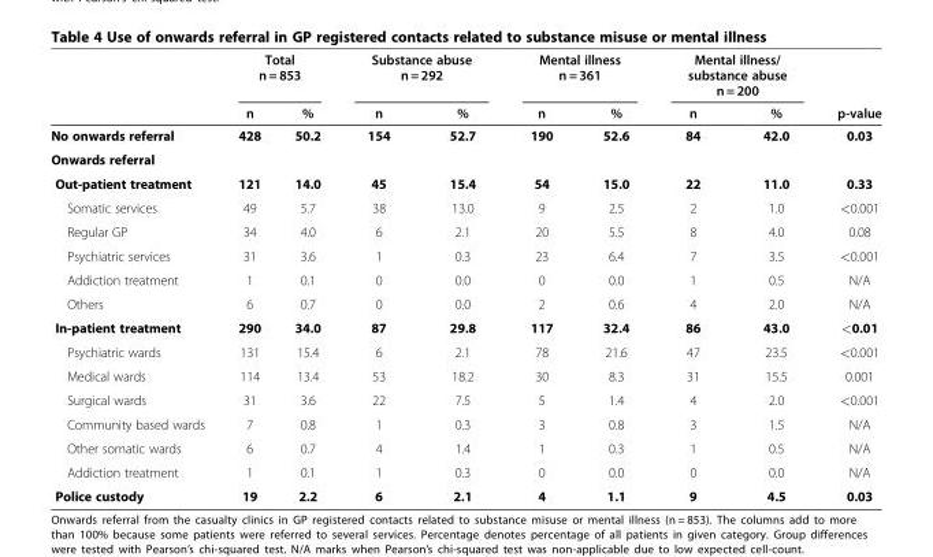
<table><thead><tr><td rowspan="2"></td><td colspan="2">Total n = 853</td><td colspan="2">Substance abuse n = 292</td><td colspan="2">Mental illness n = 361</td><td colspan="2">Mental illness/ substance abuse n = 200</td><td rowspan="2">p-value</td></tr><tr><td>n</td><td>%</td><td>n</td><td>%</td><td>n</td><td>%</td><td>n</td><td>%</td></tr></thead><tbody><tr><td>No onwards referral</td><td>428</td><td>50.2</td><td>154</td><td>52.7</td><td>190</td><td>52.6</td><td>84</td><td>42.0</td><td>0.03</td></tr><tr><td colspan="10">Onwards referral</td></tr><tr><td>Out-patient treatment</td><td>121</td><td>14.0</td><td>45</td><td>15.4</td><td>54</td><td>15.0</td><td>22</td><td>11.0</td><td>0.33</td></tr><tr><td>Somatic services</td><td>49</td><td>5.7</td><td>38</td><td>13.0</td><td>9</td><td>2.5</td><td>2</td><td>1.0</td><td>&lt;0.001</td></tr><tr><td>Regular GP</td><td>34</td><td>4.0</td><td>6</td><td>2.1</td><td>20</td><td>5.5</td><td>8</td><td>4.0</td><td>0.08</td></tr><tr><td>Psychiatric services</td><td>31</td><td>3.6</td><td>1</td><td>0.3</td><td>23</td><td>6.4</td><td>7</td><td>3.5</td><td>&lt;0.001</td></tr><tr><td>Addiction treatment</td><td>1</td><td>0.1</td><td>0</td><td>0.0</td><td>0</td><td>0.0</td><td>1</td><td>0.5</td><td>N/A</td></tr><tr><td>Others</td><td>6</td><td>0.7</td><td>0</td><td>0.0</td><td>2</td><td>0.6</td><td>4</td><td>2.0</td><td>N/A</td></tr><tr><td>In-patient treatment</td><td>290</td><td>34.0</td><td>87</td><td>29.8</td><td>117</td><td>32.4</td><td>86</td><td>43.0</td><td>&lt;0.01</td></tr><tr><td>Psychiatric wards</td><td>131</td><td>15.4</td><td>6</td><td>2.1</td><td>78</td><td>21.6</td><td>47</td><td>23.5</td><td>&lt;0.001</td></tr><tr><td>Medical wards</td><td>114</td><td>13.4</td><td>53</td><td>18.2</td><td>30</td><td>8.3</td><td>31</td><td>15.5</td><td>0.001</td></tr><tr><td>Surgical wards</td><td>31</td><td>3.6</td><td>22</td><td>7.5</td><td>5</td><td>1.4</td><td>4</td><td>2.0</td><td>&lt;0.001</td></tr><tr><td>Community based wards</td><td>7</td><td>0.8</td><td>1</td><td>0.3</td><td>3</td><td>0.8</td><td>3</td><td>1.5</td><td>N/A</td></tr><tr><td>Other somatic wards</td><td>6</td><td>0.7</td><td>4</td><td>1.4</td><td>1</td><td>0.3</td><td>1</td><td>0.5</td><td>N/A</td></tr><tr><td>Addiction treatment</td><td>1</td><td>0.1</td><td>1</td><td>0.3</td><td>0</td><td>0.0</td><td>0</td><td>0.0</td><td>N/A</td></tr><tr><td>Police custody</td><td>19</td><td>2.2</td><td>6</td><td>2.1</td><td>4</td><td>1.1</td><td>9</td><td>4.5</td><td>0.03</td></tr></tbody></table>